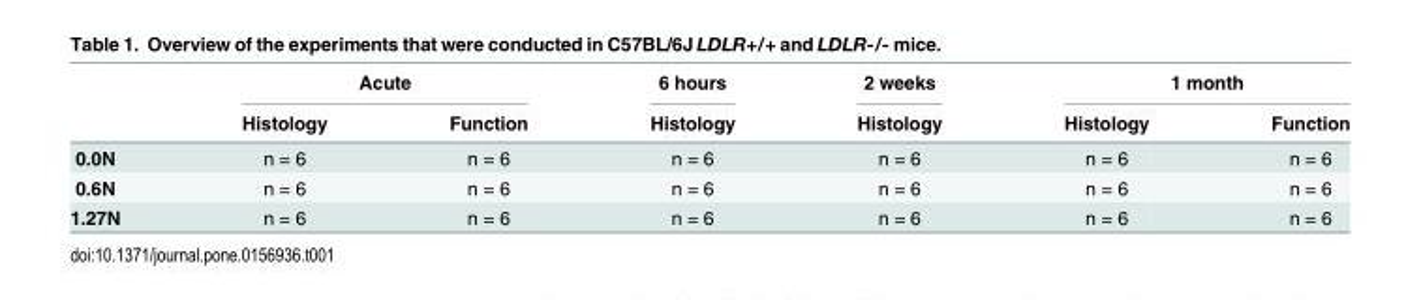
<table><thead><tr><td rowspan="2"></td><td colspan="2">Acute</td><td rowspan="2">6 hours Histology</td><td rowspan="2">2 weeks Histology</td><td colspan="2">1 month</td></tr><tr><td>Histology</td><td>Function</td><td>Histology</td><td>Function</td></tr></thead><tbody><tr><td>0.0N</td><td>n = 6</td><td>n = 6</td><td>n = 6</td><td>n = 6</td><td>n = 6</td><td>n = 6</td></tr><tr><td>0.6N</td><td>n = 6</td><td>n = 6</td><td>n = 6</td><td>n = 6</td><td>n = 6</td><td>n = 6</td></tr><tr><td>1.27N</td><td>n = 6</td><td>n = 6</td><td>n = 6</td><td>n = 6</td><td>n = 6</td><td>n = 6</td></tr></tbody></table>